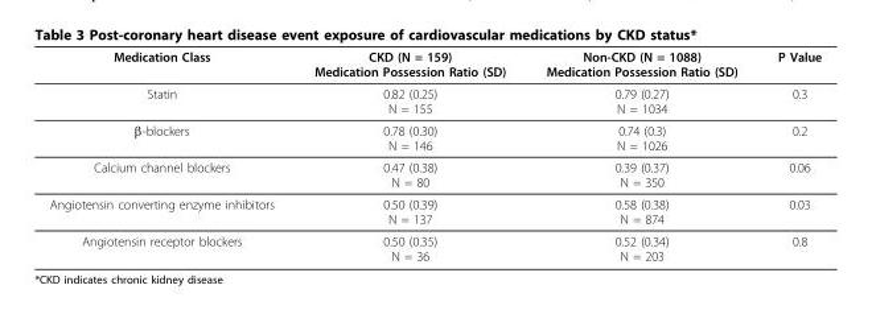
<table><thead><tr><td>Medication Class</td><td>CKD (N = 159) Medication Possession Ratio (SD)</td><td>Non-CKD (N = 1088) Medication Possession Ratio (SD)</td><td>P Value</td></tr></thead><tbody><tr><td>Statin</td><td>0.82 (0.25) N = 155</td><td>0.79 (0.27) N = 1034</td><td>0.3</td></tr><tr><td>β-blockers</td><td>0.78 (0.30) N = 146</td><td>0.74 (0.3) N = 1026</td><td>0.2</td></tr><tr><td>Calcium channel blockers</td><td>0.47 (0.38) N = 80</td><td>0.39 (0.37) N = 350</td><td>0.06</td></tr><tr><td>Angiotensin converting enzyme inhibitors</td><td>0.50 (0.39) N = 137</td><td>0.58 (0.38) N = 874</td><td>0.03</td></tr><tr><td>Angiotensin receptor blockers</td><td>0.50 (0.35) N = 36</td><td>0.52 (0.34) N = 203</td><td>0.8</td></tr></tbody></table>